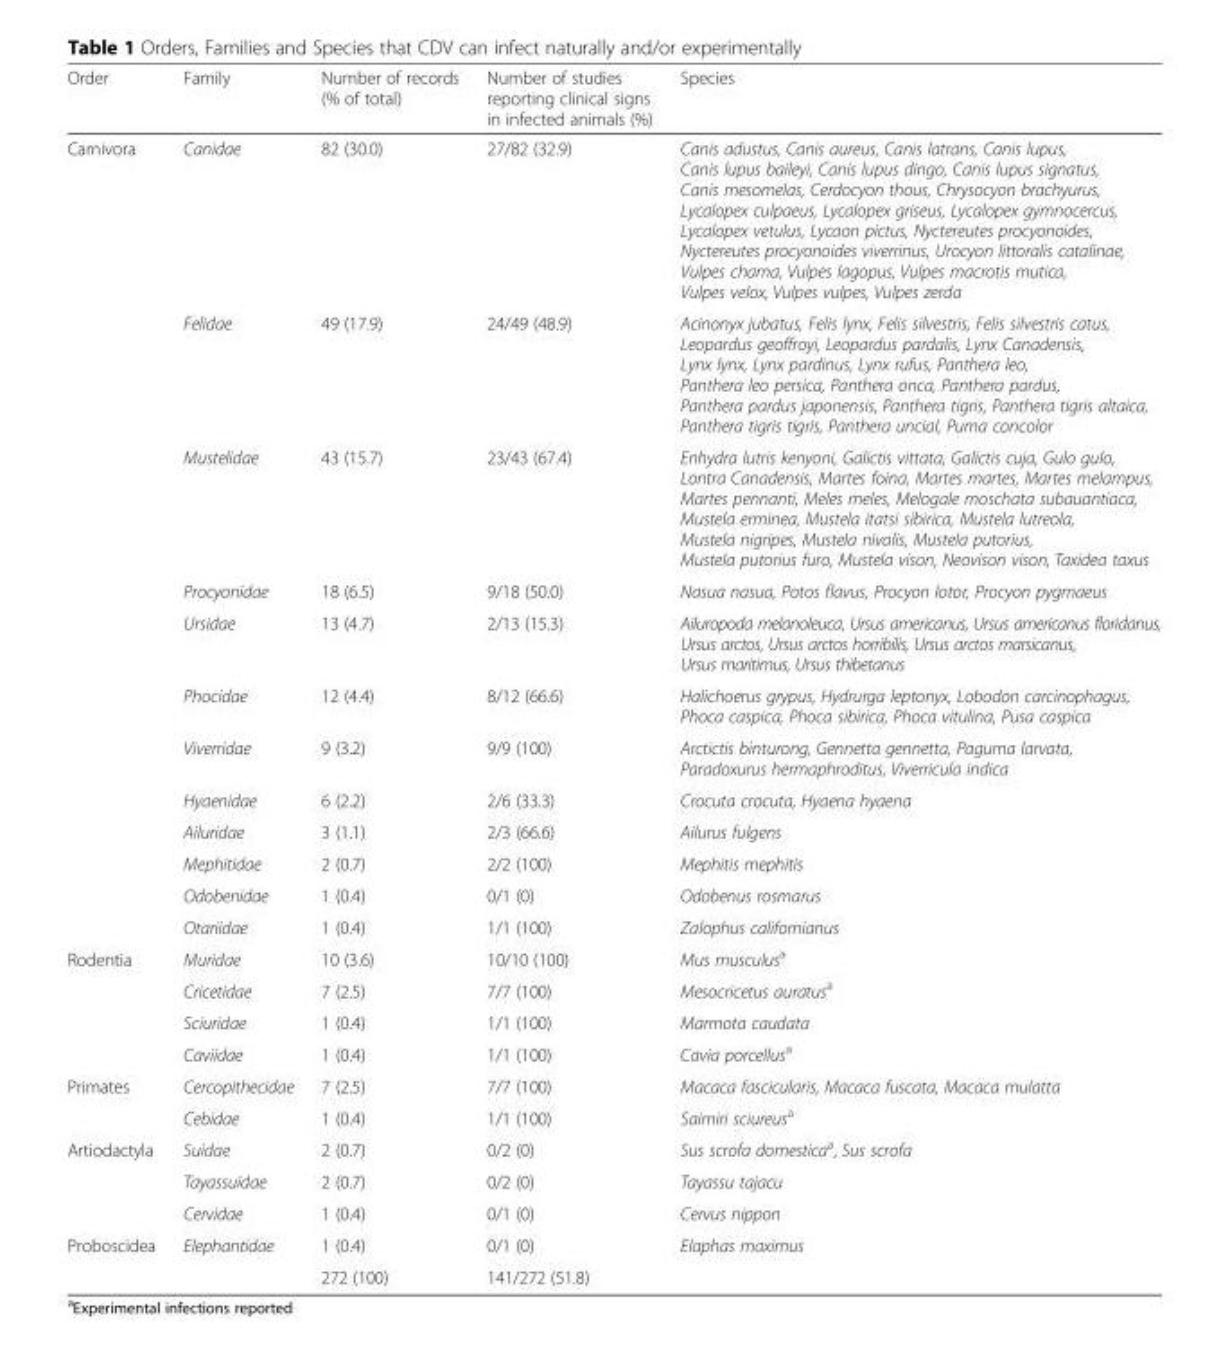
<table><thead><tr><td>Order</td><td>Family</td><td>Number of records (% of total)</td><td>Number of studies reporting clinical signs in infected animals (%)</td><td>Species</td></tr></thead><tbody><tr><td rowspan="12">Carnivora</td><td>Canidae</td><td>82 (30.0)</td><td>27/82 (32.9)</td><td>Canis adustus, Canis aureus, Canis latrans, Canis lupus, Canis lupus baileyi, Canis lupus dingo, Canis lupus signatus, Canis mesomelas, Cerdocyon thous, Chrysocyon brachyurus, Lycalopex culpaeus, Lycalopex griseus, Lycalopex gymnocercus, Lycalopex vetulus, Lycaon pictus, Nyctereutes procyonoides, Nyctereutes procyonoides viverrinus, Urocyon littoralis catalinae, Vulpes chama, Vulpes lagopus, Vulpes macrotis mutica, Vulpes velox, Vulpes vulpes, Vulpes zerda</td></tr><tr><td>Felidae</td><td>49 (17.9)</td><td>24/49 (48.9)</td><td>Acinonyx jubatus, Felis lynx, Felis silvestris, Felis silvestris catus, Leopardus geoffroyi, Leopardus pardalis, Lynx Canadensis, Lynx lynx, Lynx pardinus, Lynx rufus, Panthera leo, Panthera leo persica, Panthera onca, Panthera pardus, Panthera pardus japonensis, Panthera tigris, Panthera tigris altaica, Panthera tigris tigris, Panthera uncial, Puma concolor</td></tr><tr><td>Mustelidae</td><td>43 (15.7)</td><td>23/43 (67.4)</td><td>Enhydra lutris kenyoni, Galictis vittata, Galictis cuja, Gulo gulo, Lontra Canadensis, Martes foina, Martes martes, Martes melampus, Martes pennanti, Meles meles, Melogale moschata subauantiaca, Mustela erminea, Mustela itatsi sibirica, Mustela lutreola, Mustela nigripes, Mustela nivalis, Mustela putorius, Mustela putorius furo, Mustela vison, Neovison vison, Taxidea taxus</td></tr><tr><td>Procyonidae</td><td>18 (6.5)</td><td>9/18 (50.0)</td><td>Nasua nasua, Potos flavus, Procyon lotor, Procyon pygmaeus</td></tr><tr><td>Ursidae</td><td>13 (4.7)</td><td>2/13 (15.3)</td><td>Ailuropoda melanoleuca, Ursus americanus, Ursus americanus floridanus, Ursus arctos, Ursus arctos horribilis, Ursus arctos marsicanus, Ursus maritimus, Ursus thibetanus</td></tr><tr><td>Phocidae</td><td>12 (4.4)</td><td>8/12 (66.6)</td><td>Halichoerus grypus, Hydrurga leptonyx, Lobodon carcinophagus, Phoca caspica, Phoca sibirica, Phoca vitulina, Pusa caspica</td></tr><tr><td>Viverridae</td><td>9 (3.2)</td><td>9/9 (100)</td><td>Arctictis binturong, Gennetta gennetta, Paguma larvata, Paradoxurus hermaphroditus, Viverricula indica</td></tr><tr><td>Hyaenidae</td><td>6 (2.2)</td><td>2/6 (33.3)</td><td>Crocuta crocuta, Hyaena hyaena</td></tr><tr><td>Ailuridae</td><td>3 (1.1)</td><td>2/3 (66.6)</td><td>Ailurus fulgens</td></tr><tr><td>Mephitidae</td><td>2 (0.7)</td><td>2/2 (100)</td><td>Mephitis mephitis</td></tr><tr><td>Odobenidae</td><td>1 (0.4)</td><td>0/1 (0)</td><td>Odobenus rosmarus</td></tr><tr><td>Otariidae</td><td>1 (0.4)</td><td>1/1 (100)</td><td>Zalophus californianus</td></tr><tr><td rowspan="4">Rodentia</td><td>Muridae</td><td>10 (3.6)</td><td>10/10 (100)</td><td>Mus musculus<sup>a</sup></td></tr><tr><td>Cricetidae</td><td>7 (2.5)</td><td>7/7 (100)</td><td>Mesocricetus auratus<sup>a</sup></td></tr><tr><td>Sciuridae</td><td>1 (0.4)</td><td>1/1 (100)</td><td>Marmota caudata</td></tr><tr><td>Caviidae</td><td>1 (0.4)</td><td>1/1 (100)</td><td>Cavia porcellus<sup>a</sup></td></tr><tr><td rowspan="2">Primates</td><td>Cercopithecidae</td><td>7 (2.5)</td><td>7/7 (100)</td><td>Macaca fascicularis, Macaca fuscata, Macaca mulatta</td></tr><tr><td>Cebidae</td><td>1 (0.4)</td><td>1/1 (100)</td><td>Saimiri sciureus<sup>a</sup></td></tr><tr><td rowspan="3">Artiodactyla</td><td>Suidae</td><td>2 (0.7)</td><td>0/2 (0)</td><td>Sus scrofa domestica<sup>a</sup>, Sus scrofa</td></tr><tr><td>Tayassuidae</td><td>2 (0.7)</td><td>0/2 (0)</td><td>Tayassu tajacu</td></tr><tr><td>Cervidae</td><td>1 (0.4)</td><td>0/1 (0)</td><td>Cervus nippon</td></tr><tr><td rowspan="2">Proboscidea</td><td>Elephantidae</td><td>1 (0.4)</td><td>0/1 (0)</td><td>Elaphas maximus</td></tr><tr><td></td><td>272 (100)</td><td>141/272 (51.8)</td><td></td></tr></tbody></table>